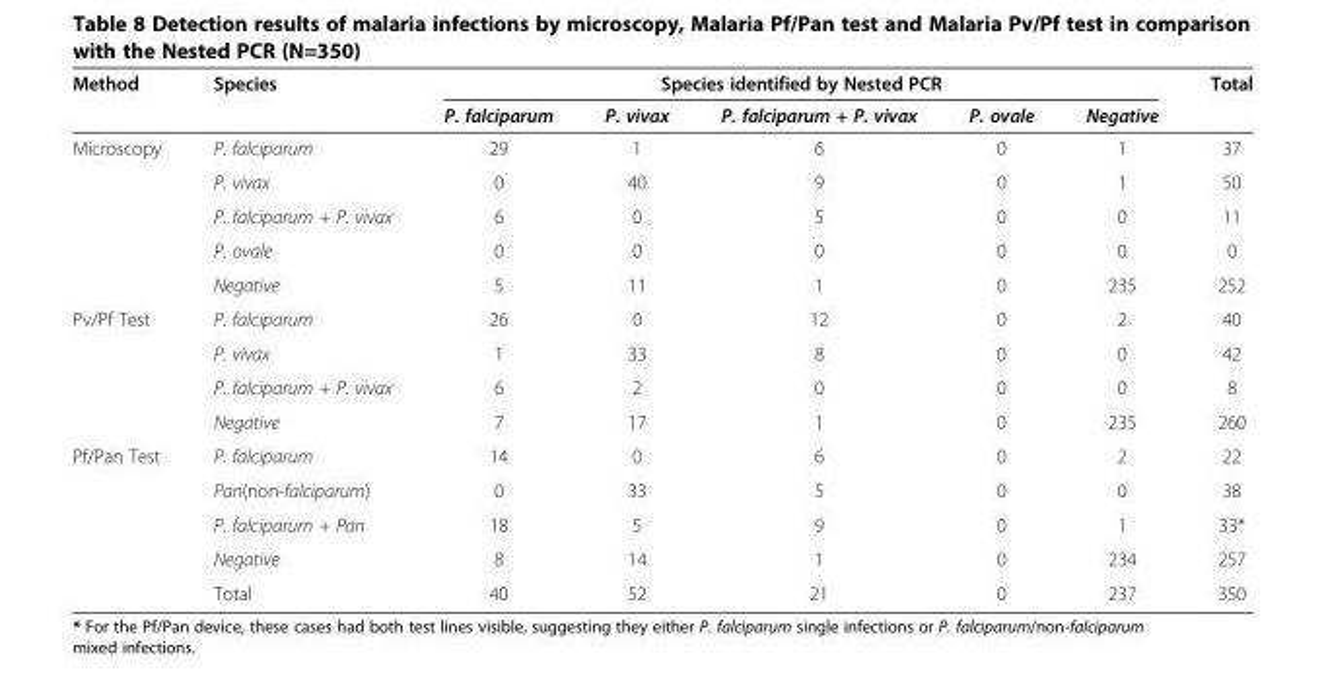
<table><thead><tr><td rowspan="2">Method</td><td rowspan="2">Species</td><td colspan="5">Species identified by Nested PCR</td><td rowspan="2">Total</td></tr><tr><td>P. falciparum</td><td>P. vivax</td><td>P. falciparum + P. vivax</td><td>P. ovale</td><td>Negative</td></tr></thead><tbody><tr><td rowspan="5">Microscopy</td><td>P. falciparum</td><td>29</td><td>1</td><td>6</td><td>0</td><td>1</td><td>37</td></tr><tr><td>P. vivax</td><td>0</td><td>40</td><td>9</td><td>0</td><td>1</td><td>50</td></tr><tr><td>P. falciparum + P. vivax</td><td>6</td><td>0</td><td>5</td><td>0</td><td>0</td><td>11</td></tr><tr><td>P. ovale</td><td>0</td><td>0</td><td>0</td><td>0</td><td>0</td><td>0</td></tr><tr><td>Negative</td><td>5</td><td>11</td><td>1</td><td>0</td><td>235</td><td>252</td></tr><tr><td rowspan="4">Pv/Pf Test</td><td>P. falciparum</td><td>26</td><td>0</td><td>12</td><td>0</td><td>2</td><td>40</td></tr><tr><td>P. vivax</td><td>1</td><td>33</td><td>8</td><td>0</td><td>0</td><td>42</td></tr><tr><td>P. falciparum + P. vivax</td><td>6</td><td>2</td><td>0</td><td>0</td><td>0</td><td>8</td></tr><tr><td>Negative</td><td>7</td><td>17</td><td>1</td><td>0</td><td>235</td><td>260</td></tr><tr><td rowspan="5">Pf/Pan Test</td><td>P. falciparum</td><td>14</td><td>0</td><td>6</td><td>0</td><td>2</td><td>22</td></tr><tr><td>Pan(non-falciparum)</td><td>0</td><td>33</td><td>5</td><td>0</td><td>0</td><td>38</td></tr><tr><td>P. falciparum + Pan</td><td>18</td><td>5</td><td>9</td><td>0</td><td>1</td><td>33*</td></tr><tr><td>Negative</td><td>8</td><td>14</td><td>1</td><td>0</td><td>234</td><td>257</td></tr><tr><td>Total</td><td>40</td><td>52</td><td>21</td><td>0</td><td>237</td><td>350</td></tr></tbody></table>